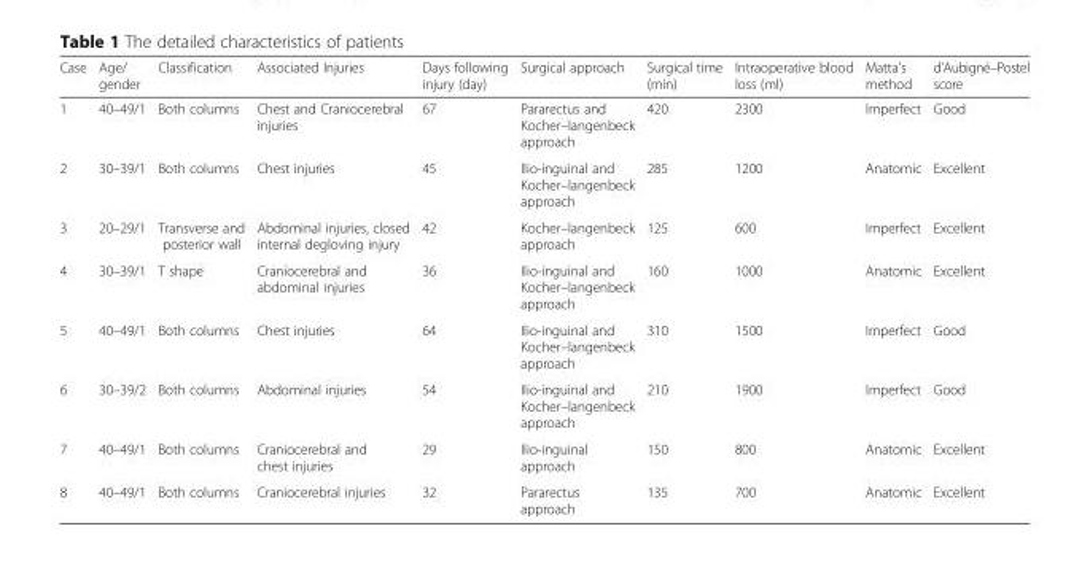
<table><thead><tr><td>Case</td><td>Age/ gender</td><td>Classification</td><td>Associated Injuries</td><td>Days following injury (day)</td><td>Surgical approach</td><td>Surgical time (min)</td><td>Intraoperative blood loss (ml)</td><td>Matta’s method</td><td>d’Aubigné–Postel score</td></tr></thead><tbody><tr><td>1</td><td>40–49/1</td><td>Both columns</td><td>Chest and Craniocerebral injuries</td><td>67</td><td>Pararectus and Kocher–langenbeck approach</td><td>420</td><td>2300</td><td>Imperfect</td><td>Good</td></tr><tr><td>2</td><td>30–39/1</td><td>Both columns</td><td>Chest injuries</td><td>45</td><td>Ilio-inguinal and Kocher–langenbeck approach</td><td>285</td><td>1200</td><td>Anatomic</td><td>Excellent</td></tr><tr><td>3</td><td>20–29/1</td><td>Transverse and posterior wall</td><td>Abdominal injuries, closed internal degloving injury</td><td>42</td><td>Kocher–langenbeck approach</td><td>125</td><td>600</td><td>Imperfect</td><td>Excellent</td></tr><tr><td>4</td><td>30–39/1</td><td>T shape</td><td>Craniocerebral and abdominal injuries</td><td>36</td><td>Ilio-inguinal and Kocher–langenbeck approach</td><td>160</td><td>1000</td><td>Anatomic</td><td>Excellent</td></tr><tr><td>5</td><td>40–49/1</td><td>Both columns</td><td>Chest injuries</td><td>64</td><td>Ilio-inguinal and Kocher–langenbeck approach</td><td>310</td><td>1500</td><td>Imperfect</td><td>Good</td></tr><tr><td>6</td><td>30–39/2</td><td>Both columns</td><td>Abdominal injuries</td><td>54</td><td>Ilio-inguinal and Kocher–langenbeck approach</td><td>210</td><td>1900</td><td>Imperfect</td><td>Good</td></tr><tr><td>7</td><td>40–49/1</td><td>Both columns</td><td>Craniocerebral and chest injuries</td><td>29</td><td>Ilio-inguinal approach</td><td>150</td><td>800</td><td>Anatomic</td><td>Excellent</td></tr><tr><td>8</td><td>40–49/1</td><td>Both columns</td><td>Craniocerebral injuries</td><td>32</td><td>Pararectus approach</td><td>135</td><td>700</td><td>Anatomic</td><td>Excellent</td></tr></tbody></table>